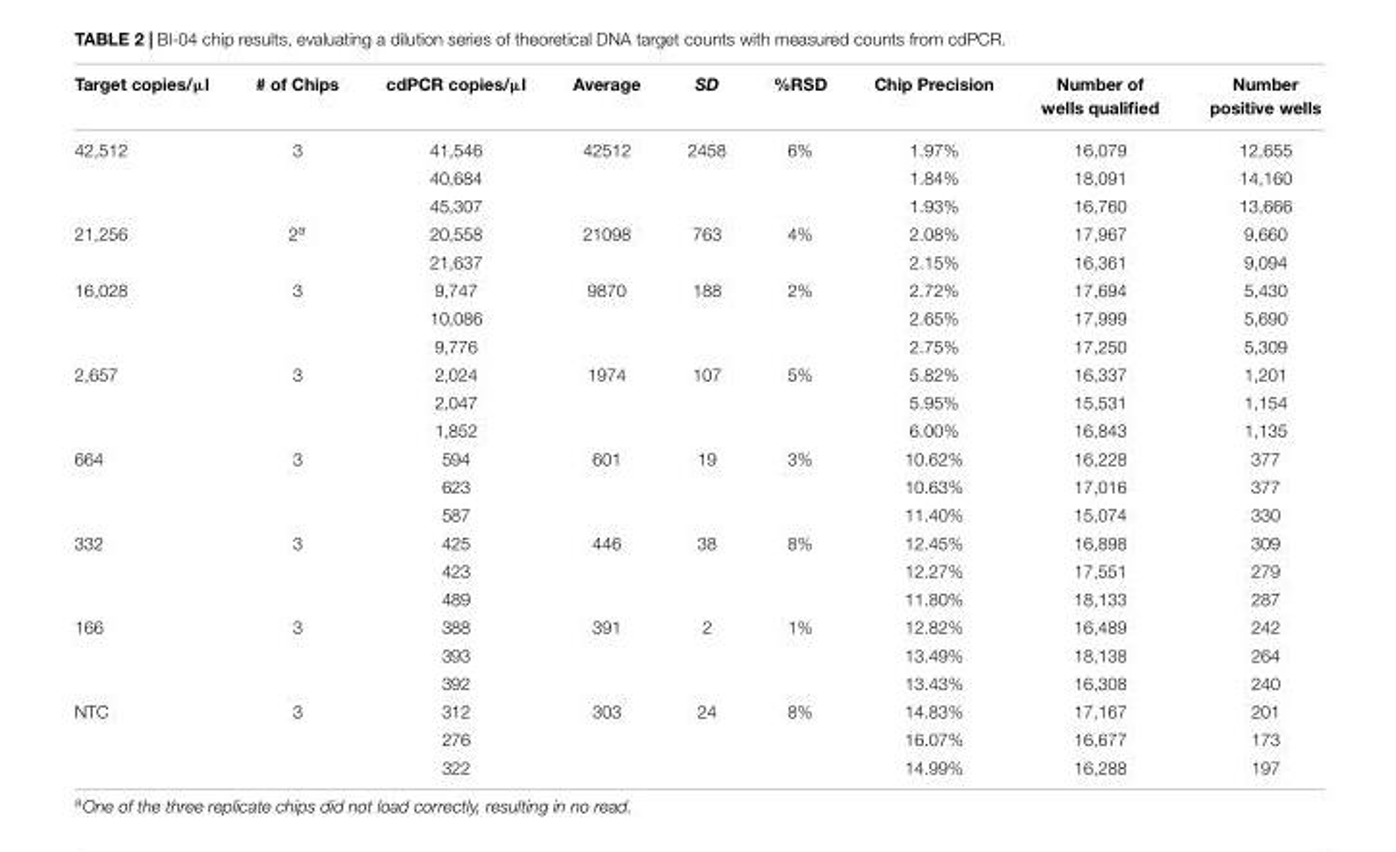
<table><thead><tr><td>Target copies/µl</td><td># of Chips</td><td>cdPCR copies/µl</td><td>Average</td><td>SD</td><td>%RSD</td><td>Chip Precision</td><td>Number of wells qualified</td><td>Number positive wells</td></tr></thead><tbody><tr><td rowspan="3">42,512</td><td>3</td><td>41,546</td><td>42512</td><td>2458</td><td>6%</td><td>1.97%</td><td>16,079</td><td>12,655</td></tr><tr><td></td><td>40,684</td><td></td><td></td><td></td><td>1.84%</td><td>18,091</td><td>14,160</td></tr><tr><td></td><td>45,307</td><td></td><td></td><td></td><td>1.93%</td><td>16,760</td><td>13,666</td></tr><tr><td rowspan="2">21,256</td><td>2<sup>a</sup></td><td>20,558</td><td>21098</td><td>763</td><td>4%</td><td>2.08%</td><td>17,967</td><td>9,660</td></tr><tr><td></td><td>21,637</td><td></td><td></td><td></td><td>2.15%</td><td>16,361</td><td>9,094</td></tr><tr><td rowspan="3">16,028</td><td>3</td><td>9,747</td><td>9870</td><td>188</td><td>2%</td><td>2.72%</td><td>17,694</td><td>5,430</td></tr><tr><td></td><td>10,086</td><td></td><td></td><td></td><td>2.65%</td><td>17,999</td><td>5,690</td></tr><tr><td></td><td>9,776</td><td></td><td></td><td></td><td>2.75%</td><td>17,250</td><td>5,309</td></tr><tr><td rowspan="3">2,657</td><td>3</td><td>2,024</td><td>1974</td><td>107</td><td>5%</td><td>5.82%</td><td>16,337</td><td>1,201</td></tr><tr><td></td><td>2,047</td><td></td><td></td><td></td><td>5.95%</td><td>15,531</td><td>1,154</td></tr><tr><td></td><td>1,852</td><td></td><td></td><td></td><td>6.00%</td><td>16,843</td><td>1,135</td></tr><tr><td rowspan="3">664</td><td>3</td><td>594</td><td>601</td><td>19</td><td>3%</td><td>10.62%</td><td>16,228</td><td>377</td></tr><tr><td></td><td>623</td><td></td><td></td><td></td><td>10.63%</td><td>17,016</td><td>377</td></tr><tr><td></td><td>587</td><td></td><td></td><td></td><td>11.40%</td><td>15,074</td><td>330</td></tr><tr><td rowspan="3">332</td><td>3</td><td>425</td><td>446</td><td>38</td><td>8%</td><td>12.45%</td><td>16,898</td><td>309</td></tr><tr><td></td><td>423</td><td></td><td></td><td></td><td>12.27%</td><td>17,551</td><td>279</td></tr><tr><td></td><td>489</td><td></td><td></td><td></td><td>11.80%</td><td>18,133</td><td>287</td></tr><tr><td rowspan="3">166</td><td>3</td><td>388</td><td>391</td><td>2</td><td>1%</td><td>12.82%</td><td>16,489</td><td>242</td></tr><tr><td></td><td>393</td><td></td><td></td><td></td><td>13.49%</td><td>18,138</td><td>264</td></tr><tr><td></td><td>392</td><td></td><td></td><td></td><td>13.43%</td><td>16,308</td><td>240</td></tr><tr><td rowspan="3">NTC</td><td>3</td><td>312</td><td>303</td><td>24</td><td>8%</td><td>14.83%</td><td>17,167</td><td>201</td></tr><tr><td></td><td>276</td><td></td><td></td><td></td><td>16.07%</td><td>16,677</td><td>173</td></tr><tr><td></td><td>322</td><td></td><td></td><td></td><td>14.99%</td><td>16,288</td><td>197</td></tr></tbody></table>